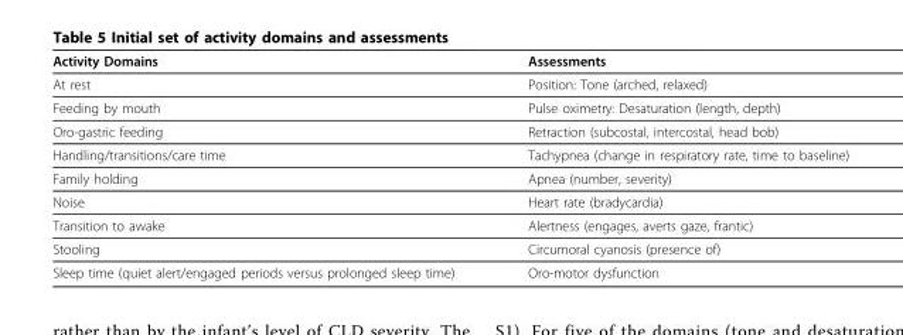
<table><thead><tr><td>Activity Domains</td><td>Assessments</td></tr></thead><tbody><tr><td>At rest</td><td>Position: Tone (arched, relaxed)</td></tr><tr><td>Feeding by mouth</td><td>Pulse oximetry: Desaturation (length, depth)</td></tr><tr><td>Oro-gastric feeding</td><td>Retraction (subcostal, intercostal, head bob)</td></tr><tr><td>Handling/transitions/care time</td><td>Tachypnea (change in respiratory rate, time to baseline)</td></tr><tr><td>Family holding</td><td>Apnea (number, severity)</td></tr><tr><td>Noise</td><td>Heart rate (bradycardia)</td></tr><tr><td>Transition to awake</td><td>Alertness (engages, averts gaze, frantic)</td></tr><tr><td>Stooling</td><td>Circumoral cyanosis (presence of)</td></tr><tr><td>Sleep time (quiet alert/engaged periods versus prolonged sleep time)</td><td>Oro-motor dysfunction</td></tr></tbody></table>